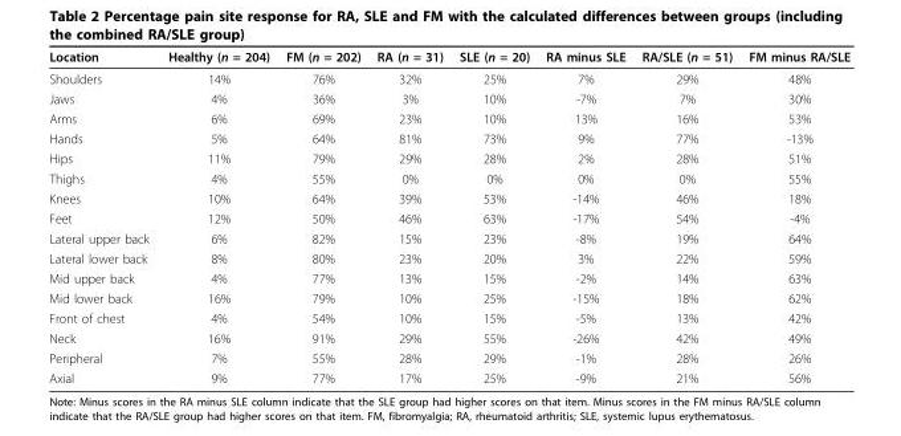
<table><thead><tr><td>Location</td><td>Healthy (n = 204)</td><td>FM (n = 202)</td><td>RA (n = 31)</td><td>SLE (n = 20)</td><td>RA minus SLE</td><td>RA/SLE (n = 51)</td><td>FM minus RA/SLE</td></tr></thead><tbody><tr><td>Shoulders</td><td>14%</td><td>76%</td><td>32%</td><td>25%</td><td>7%</td><td>29%</td><td>48%</td></tr><tr><td>Jaws</td><td>4%</td><td>36%</td><td>3%</td><td>10%</td><td>-7%</td><td>7%</td><td>30%</td></tr><tr><td>Arms</td><td>6%</td><td>69%</td><td>23%</td><td>10%</td><td>13%</td><td>16%</td><td>53%</td></tr><tr><td>Hands</td><td>5%</td><td>64%</td><td>81%</td><td>73%</td><td>9%</td><td>77%</td><td>-13%</td></tr><tr><td>Hips</td><td>11%</td><td>79%</td><td>29%</td><td>28%</td><td>2%</td><td>28%</td><td>51%</td></tr><tr><td>Thighs</td><td>4%</td><td>55%</td><td>0%</td><td>0%</td><td>0%</td><td>0%</td><td>55%</td></tr><tr><td>Knees</td><td>10%</td><td>64%</td><td>39%</td><td>53%</td><td>-14%</td><td>46%</td><td>18%</td></tr><tr><td>Feet</td><td>12%</td><td>50%</td><td>46%</td><td>63%</td><td>-17%</td><td>54%</td><td>-4%</td></tr><tr><td>Lateral upper back</td><td>6%</td><td>82%</td><td>15%</td><td>23%</td><td>-8%</td><td>19%</td><td>64%</td></tr><tr><td>Lateral lower back</td><td>8%</td><td>80%</td><td>23%</td><td>20%</td><td>3%</td><td>22%</td><td>59%</td></tr><tr><td>Mid upper back</td><td>4%</td><td>77%</td><td>13%</td><td>15%</td><td>-2%</td><td>14%</td><td>63%</td></tr><tr><td>Mid lower back</td><td>16%</td><td>79%</td><td>10%</td><td>25%</td><td>-15%</td><td>18%</td><td>62%</td></tr><tr><td>Front of chest</td><td>4%</td><td>54%</td><td>10%</td><td>15%</td><td>-5%</td><td>13%</td><td>42%</td></tr><tr><td>Neck</td><td>16%</td><td>91%</td><td>29%</td><td>55%</td><td>-26%</td><td>42%</td><td>49%</td></tr><tr><td>Peripheral</td><td>7%</td><td>55%</td><td>28%</td><td>29%</td><td>-1%</td><td>28%</td><td>26%</td></tr><tr><td>Axial</td><td>9%</td><td>77%</td><td>17%</td><td>25%</td><td>-9%</td><td>21%</td><td>56%</td></tr></tbody></table>